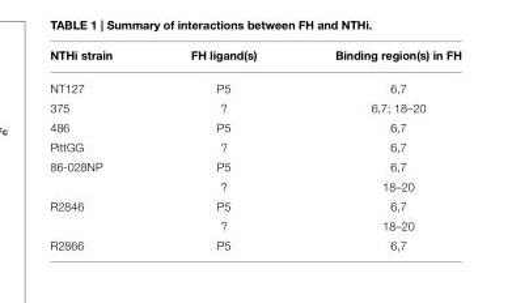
<table><thead><tr><td>NTHi strain</td><td>FH ligand(s)</td><td>Binding region(s) in FH</td></tr></thead><tbody><tr><td>NT127</td><td>P5</td><td>6,7</td></tr><tr><td>375</td><td>?</td><td>6,7; 18–20</td></tr><tr><td>486</td><td>P5</td><td>6,7</td></tr><tr><td>PittGG</td><td>?</td><td>6,7</td></tr><tr><td rowspan="2">86-028NP</td><td>P5</td><td>6,7</td></tr><tr><td>?</td><td>18–20</td></tr><tr><td rowspan="2">R2846</td><td>P5</td><td>6,7</td></tr><tr><td>?</td><td>18–20</td></tr><tr><td>R2866</td><td>P5</td><td>6,7</td></tr></tbody></table>